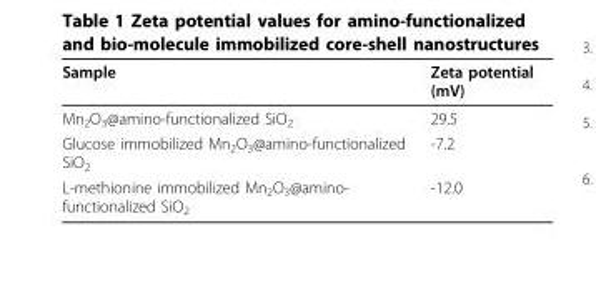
<table><thead><tr><td>Sample</td><td>Zeta potential (mV)</td></tr></thead><tbody><tr><td>Mn<sub>2</sub>O<sub>3</sub>@amino-functionalized SiO<sub>2</sub></td><td>29.5</td></tr><tr><td>Glucose immobilized Mn<sub>2</sub>O<sub>3</sub>@amino-functionalized SiO<sub>2</sub></td><td>-7.2</td></tr><tr><td>L-methionine immobilized Mn<sub>2</sub>O<sub>3</sub>@amino- functionalized SiO<sub>2</sub></td><td>-12.0</td></tr></tbody></table>